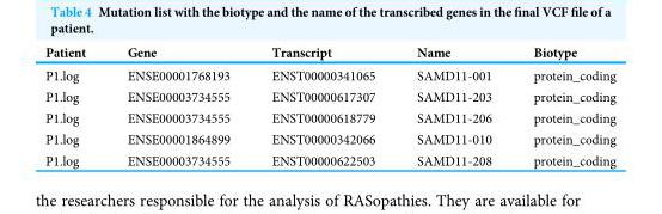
<table><thead><tr><td>Patient</td><td>Gene</td><td>Transcript</td><td>Name</td><td>Biotype</td></tr></thead><tbody><tr><td>P1.log</td><td>ENSE00001768193</td><td>ENST00000341065</td><td>SAMD11-001</td><td>protein_coding</td></tr><tr><td>P1.log</td><td>ENSE00003734555</td><td>ENST00000617307</td><td>SAMD11-203</td><td>protein_coding</td></tr><tr><td>P1.log</td><td>ENSE00003734555</td><td>ENST00000618779</td><td>SAMD11-206</td><td>protein_coding</td></tr><tr><td>P1.log</td><td>ENSE00001864899</td><td>ENST00000342066</td><td>SAMD11-010</td><td>protein_coding</td></tr><tr><td>P1.log</td><td>ENSE00003734555</td><td>ENST00000622503</td><td>SAMD11-208</td><td>protein_coding</td></tr></tbody></table>